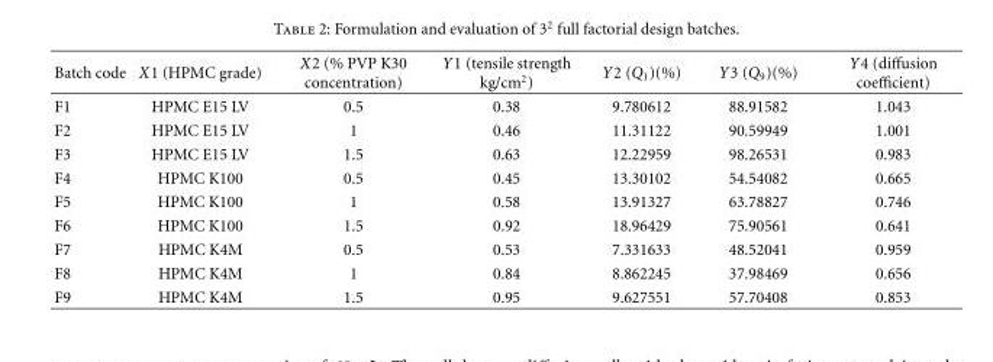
<table><thead><tr><td>Batch code</td><td>X1 (HPMC grade)</td><td>X2 (% PVP K30 concentration)</td><td>Y1 (tensile strength kg/cm<sup>2</sup>)</td><td>Y2 (Q<sub>1</sub>)(%)</td><td>Y3 (Q<sub>9</sub>)(%)</td><td>Y4 (diffusion coefficient)</td></tr></thead><tbody><tr><td>F1</td><td>HPMC E15 LV</td><td>0.5</td><td>0.38</td><td>9.780612</td><td>88.91582</td><td>1.043</td></tr><tr><td>F2</td><td>HPMC E15 LV</td><td>1</td><td>0.46</td><td>11.31122</td><td>90.59949</td><td>1.001</td></tr><tr><td>F3</td><td>HPMC E15 LV</td><td>1.5</td><td>0.63</td><td>12.22959</td><td>98.26531</td><td>0.983</td></tr><tr><td>F4</td><td>HPMC K100</td><td>0.5</td><td>0.45</td><td>13.30102</td><td>54.54082</td><td>0.665</td></tr><tr><td>F5</td><td>HPMC K100</td><td>1</td><td>0.58</td><td>13.91327</td><td>63.78827</td><td>0.746</td></tr><tr><td>F6</td><td>HPMC K100</td><td>1.5</td><td>0.92</td><td>18.96429</td><td>75.90561</td><td>0.641</td></tr><tr><td>F7</td><td>HPMC K4M</td><td>0.5</td><td>0.53</td><td>7.331633</td><td>48.52041</td><td>0.959</td></tr><tr><td>F8</td><td>HPMC K4M</td><td>1</td><td>0.84</td><td>8.862245</td><td>37.98469</td><td>0.656</td></tr><tr><td>F9</td><td>HPMC K4M</td><td>1.5</td><td>0.95</td><td>9.627551</td><td>57.70408</td><td>0.853</td></tr></tbody></table>